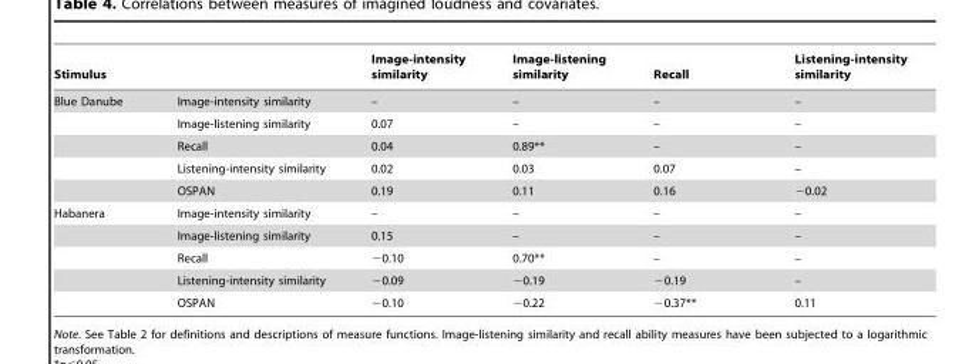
<table><thead><tr><td>Stimulus</td><td></td><td>Image-intensity similarity</td><td>Image-listening similarity</td><td>Recall</td><td>Listening-intensity similarity</td></tr></thead><tbody><tr><td rowspan="5">Blue Danube</td><td>Image-intensity similarity</td><td>–</td><td>–</td><td>–</td><td>–</td></tr><tr><td>Image-listening similarity</td><td>0.07</td><td>–</td><td>–</td><td>–</td></tr><tr><td>Recall</td><td>0.04</td><td>0.89**</td><td>–</td><td>–</td></tr><tr><td>Listening-intensity similarity</td><td>0.02</td><td>0.03</td><td>0.07</td><td>–</td></tr><tr><td>OSPAN</td><td>0.19</td><td>0.11</td><td>0.16</td><td>−0.02</td></tr><tr><td rowspan="5">Habanera</td><td>Image-intensity similarity</td><td>–</td><td>–</td><td>–</td><td>–</td></tr><tr><td>Image-listening similarity</td><td>0.15</td><td>–</td><td>–</td><td>–</td></tr><tr><td>Recall</td><td>−0.10</td><td>0.70**</td><td>–</td><td>–</td></tr><tr><td>Listening-intensity similarity</td><td>−0.09</td><td>−0.19</td><td>−0.19</td><td>–</td></tr><tr><td>OSPAN</td><td>−0.10</td><td>−0.22</td><td>−0.37**</td><td>0.11</td></tr></tbody></table>